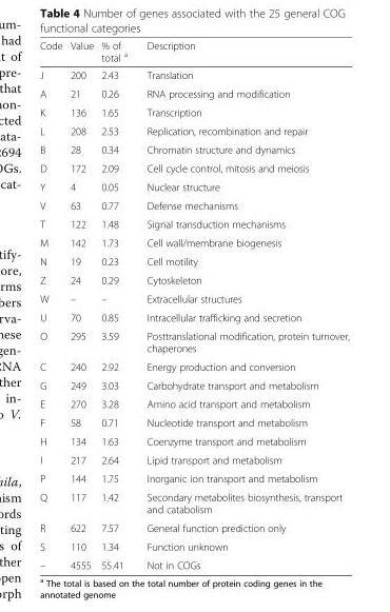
<table><thead><tr><td>Code</td><td>Value</td><td>% of total <sup>a</sup></td><td>Description</td></tr></thead><tbody><tr><td>J</td><td>200</td><td>2.43</td><td>Translation</td></tr><tr><td>A</td><td>21</td><td>0.26</td><td>RNA processing and modification</td></tr><tr><td>K</td><td>136</td><td>1.65</td><td>Transcription</td></tr><tr><td>L</td><td>208</td><td>2.53</td><td>Replication, recombination and repair</td></tr><tr><td>B</td><td>28</td><td>0.34</td><td>Chromatin structure and dynamics</td></tr><tr><td>D</td><td>172</td><td>2.09</td><td>Cell cycle control, mitosis and meiosis</td></tr><tr><td>Y</td><td>4</td><td>0.05</td><td>Nuclear structure</td></tr><tr><td>V</td><td>63</td><td>0.77</td><td>Defense mechanisms</td></tr><tr><td>T</td><td>122</td><td>1.48</td><td>Signal transduction mechanisms</td></tr><tr><td>M</td><td>142</td><td>1.73</td><td>Cell wall/membrane biogenesis</td></tr><tr><td>N</td><td>19</td><td>0.23</td><td>Cell motility</td></tr><tr><td>Z</td><td>24</td><td>0.29</td><td>Cytoskeleton</td></tr><tr><td>W</td><td>–</td><td>–</td><td>Extracellular structures</td></tr><tr><td>U</td><td>70</td><td>0.85</td><td>Intracellular trafficking and secretion</td></tr><tr><td>O</td><td>295</td><td>3.59</td><td>Posttranslational modification, protein turnover, chaperones</td></tr><tr><td>C</td><td>240</td><td>2.92</td><td>Energy production and conversion</td></tr><tr><td>G</td><td>249</td><td>3.03</td><td>Carbohydrate transport and metabolism</td></tr><tr><td>E</td><td>270</td><td>3.28</td><td>Amino acid transport and metabolism</td></tr><tr><td>F</td><td>58</td><td>0.71</td><td>Nucleotide transport and metabolism</td></tr><tr><td>H</td><td>134</td><td>1.63</td><td>Coenzyme transport and metabolism</td></tr><tr><td>I</td><td>217</td><td>2.64</td><td>Lipid transport and metabolism</td></tr><tr><td>P</td><td>144</td><td>1.75</td><td>Inorganic ion transport and metabolism</td></tr><tr><td>Q</td><td>117</td><td>1.42</td><td>Secondary metabolites biosynthesis, transport and catabolism</td></tr><tr><td>R</td><td>622</td><td>7.57</td><td>General function prediction only</td></tr><tr><td>S</td><td>110</td><td>1.34</td><td>Function unknown</td></tr><tr><td>–</td><td>4555</td><td>55.41</td><td>Not in COGs</td></tr></tbody></table>